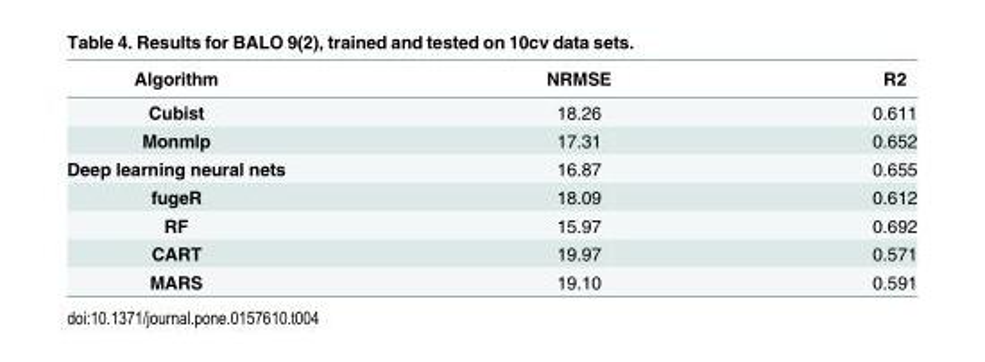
<table><thead><tr><td>Algorithm</td><td>NRMSE</td><td>R2</td></tr></thead><tbody><tr><td>Cubist</td><td>18.26</td><td>0.611</td></tr><tr><td>Monmlp</td><td>17.31</td><td>0.652</td></tr><tr><td>Deep learning neural nets</td><td>16.87</td><td>0.655</td></tr><tr><td>fugeR</td><td>18.09</td><td>0.612</td></tr><tr><td>RF</td><td>15.97</td><td>0.692</td></tr><tr><td>CART</td><td>19.97</td><td>0.571</td></tr><tr><td>MARS</td><td>19.10</td><td>0.591</td></tr></tbody></table>